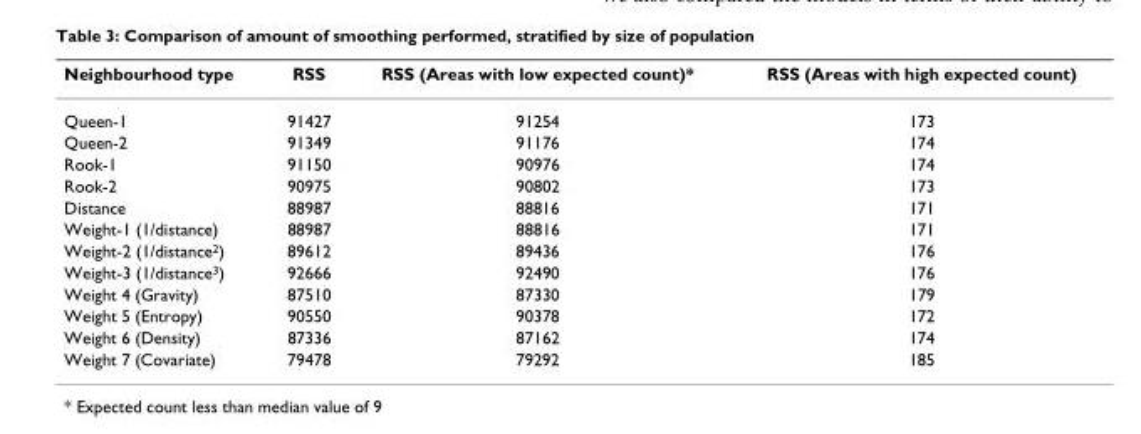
<table><thead><tr><td>Neighbourhood type</td><td>RSS</td><td>RSS (Areas with low expected count)*</td><td>RSS (Areas with high expected count)</td></tr></thead><tbody><tr><td>Queen-1</td><td>91427</td><td>91254</td><td>173</td></tr><tr><td>Queen-2</td><td>91349</td><td>91176</td><td>174</td></tr><tr><td>Rook-1</td><td>91150</td><td>90976</td><td>174</td></tr><tr><td>Rook-2</td><td>90975</td><td>90802</td><td>173</td></tr><tr><td>Distance</td><td>88987</td><td>88816</td><td>171</td></tr><tr><td>Weight-1 (1/distance)</td><td>88987</td><td>88816</td><td>171</td></tr><tr><td>Weight-2 (1/distance<sup>2</sup>)</td><td>89612</td><td>89436</td><td>176</td></tr><tr><td>Weight-3 (1/distance<sup>3</sup>)</td><td>92666</td><td>92490</td><td>176</td></tr><tr><td>Weight 4 (Gravity)</td><td>87510</td><td>87330</td><td>179</td></tr><tr><td>Weight 5 (Entropy)</td><td>90550</td><td>90378</td><td>172</td></tr><tr><td>Weight 6 (Density)</td><td>87336</td><td>87162</td><td>174</td></tr><tr><td>Weight 7 (Covariate)</td><td>79478</td><td>79292</td><td>185</td></tr></tbody></table>